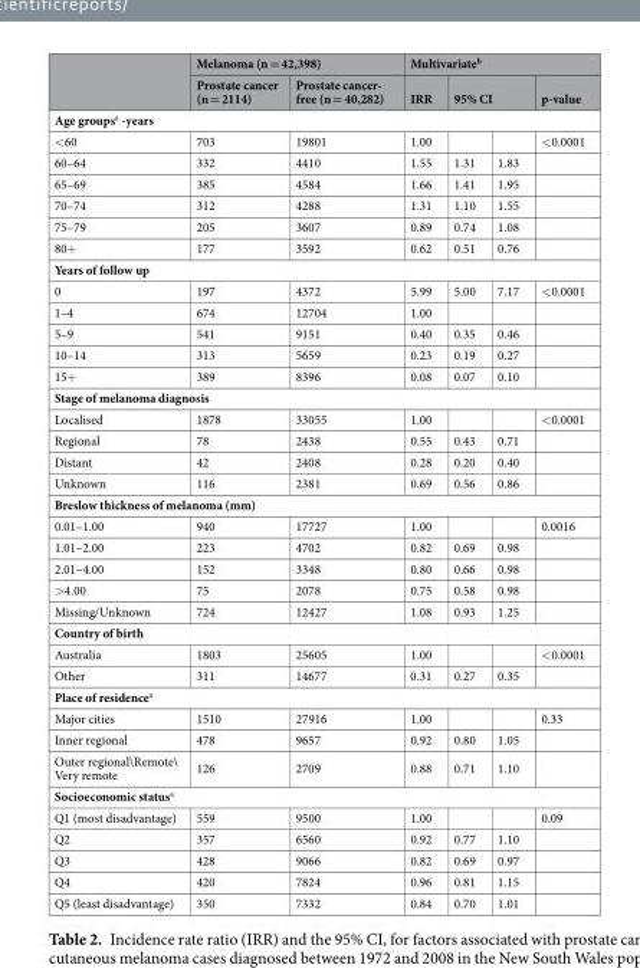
<table><thead><tr><td rowspan="2"></td><td colspan="2">Melanoma (n = 42,398)</td><td colspan="4">Multivariate<sup>b</sup></td></tr><tr><td>Prostate cancer (n = 2114)</td><td>Prostate cancer- free (n = 40,282)</td><td>IRR</td><td colspan="2">95% CI</td><td>p-value</td></tr><tr><td colspan="7">Age groups<sup>a</sup> -years</td></tr><tr><td>&lt;60</td><td>703</td><td>19801</td><td>1.00</td><td></td><td></td><td>&lt;0.0001</td></tr></thead><tbody><tr><td>60–64</td><td>332</td><td>4410</td><td>1.55</td><td>1.31</td><td>1.83</td><td></td></tr><tr><td>65–69</td><td>385</td><td>4584</td><td>1.66</td><td>1.41</td><td>1.95</td><td></td></tr><tr><td>70–74</td><td>312</td><td>4288</td><td>1.31</td><td>1.10</td><td>1.55</td><td></td></tr><tr><td>75–79</td><td>205</td><td>3607</td><td>0.89</td><td>0.74</td><td>1.08</td><td></td></tr><tr><td>80+</td><td>177</td><td>3592</td><td>0.62</td><td>0.51</td><td>0.76</td><td></td></tr><tr><td colspan="7">Years of follow up</td></tr><tr><td>0</td><td>197</td><td>4372</td><td>5.99</td><td>5.00</td><td>7.17</td><td>&lt;0.0001</td></tr><tr><td>1–4</td><td>674</td><td>12704</td><td>1.00</td><td></td><td></td><td></td></tr><tr><td>5–9</td><td>541</td><td>9151</td><td>0.40</td><td>0.35</td><td>0.46</td><td></td></tr><tr><td>10–14</td><td>313</td><td>5659</td><td>0.23</td><td>0.19</td><td>0.27</td><td></td></tr><tr><td>15+</td><td>389</td><td>8396</td><td>0.08</td><td>0.07</td><td>0.10</td><td></td></tr><tr><td colspan="7">Stage of melanoma diagnosis</td></tr><tr><td>Localised</td><td>1878</td><td>33055</td><td>1.00</td><td></td><td></td><td>&lt;0.0001</td></tr><tr><td>Regional</td><td>78</td><td>2438</td><td>0.55</td><td>0.43</td><td>0.71</td><td></td></tr><tr><td>Distant</td><td>42</td><td>2408</td><td>0.28</td><td>0.20</td><td>0.40</td><td></td></tr><tr><td>Unknown</td><td>116</td><td>2381</td><td>0.69</td><td>0.56</td><td>0.86</td><td></td></tr><tr><td colspan="7">Breslow thickness of melanoma (mm)</td></tr><tr><td>0.01–1.00</td><td>940</td><td>17727</td><td>1.00</td><td></td><td></td><td>0.0016</td></tr><tr><td>1.01–2.00</td><td>223</td><td>4702</td><td>0.82</td><td>0.69</td><td>0.98</td><td></td></tr><tr><td>2.01–4.00</td><td>152</td><td>3348</td><td>0.80</td><td>0.66</td><td>0.98</td><td></td></tr><tr><td>&gt;4.00</td><td>75</td><td>2078</td><td>0.75</td><td>0.58</td><td>0.98</td><td></td></tr><tr><td>Missing/Unknown</td><td>724</td><td>12427</td><td>1.08</td><td>0.93</td><td>1.25</td><td></td></tr><tr><td colspan="7">Country of birth</td></tr><tr><td>Australia</td><td>1803</td><td>25605</td><td>1.00</td><td></td><td></td><td>&lt;0.0001</td></tr><tr><td>Other</td><td>311</td><td>14677</td><td>0.31</td><td>0.27</td><td>0.35</td><td></td></tr><tr><td colspan="7">Place of residence<sup>a</sup></td></tr><tr><td>Major cities</td><td>1510</td><td>27916</td><td>1.00</td><td></td><td></td><td>0.33</td></tr><tr><td>Inner regional</td><td>478</td><td>9657</td><td>0.92</td><td>0.80</td><td>1.05</td><td></td></tr><tr><td>Outer regional\Remote\ Very remote</td><td>126</td><td>2709</td><td>0.88</td><td>0.71</td><td>1.10</td><td></td></tr><tr><td colspan="7">Socioeconomic status<sup>a</sup></td></tr><tr><td>Q1 (most disadvantage)</td><td>559</td><td>9500</td><td>1.00</td><td></td><td></td><td>0.09</td></tr><tr><td>Q2</td><td>357</td><td>6560</td><td>0.92</td><td>0.77</td><td>1.10</td><td></td></tr><tr><td>Q3</td><td>428</td><td>9066</td><td>0.82</td><td>0.69</td><td>0.97</td><td></td></tr><tr><td>Q4</td><td>420</td><td>7824</td><td>0.96</td><td>0.81</td><td>1.15</td><td></td></tr><tr><td>Q5 (least disadvantage)</td><td>350</td><td>7332</td><td>0.84</td><td>0.70</td><td>1.01</td><td></td></tr></tbody></table>